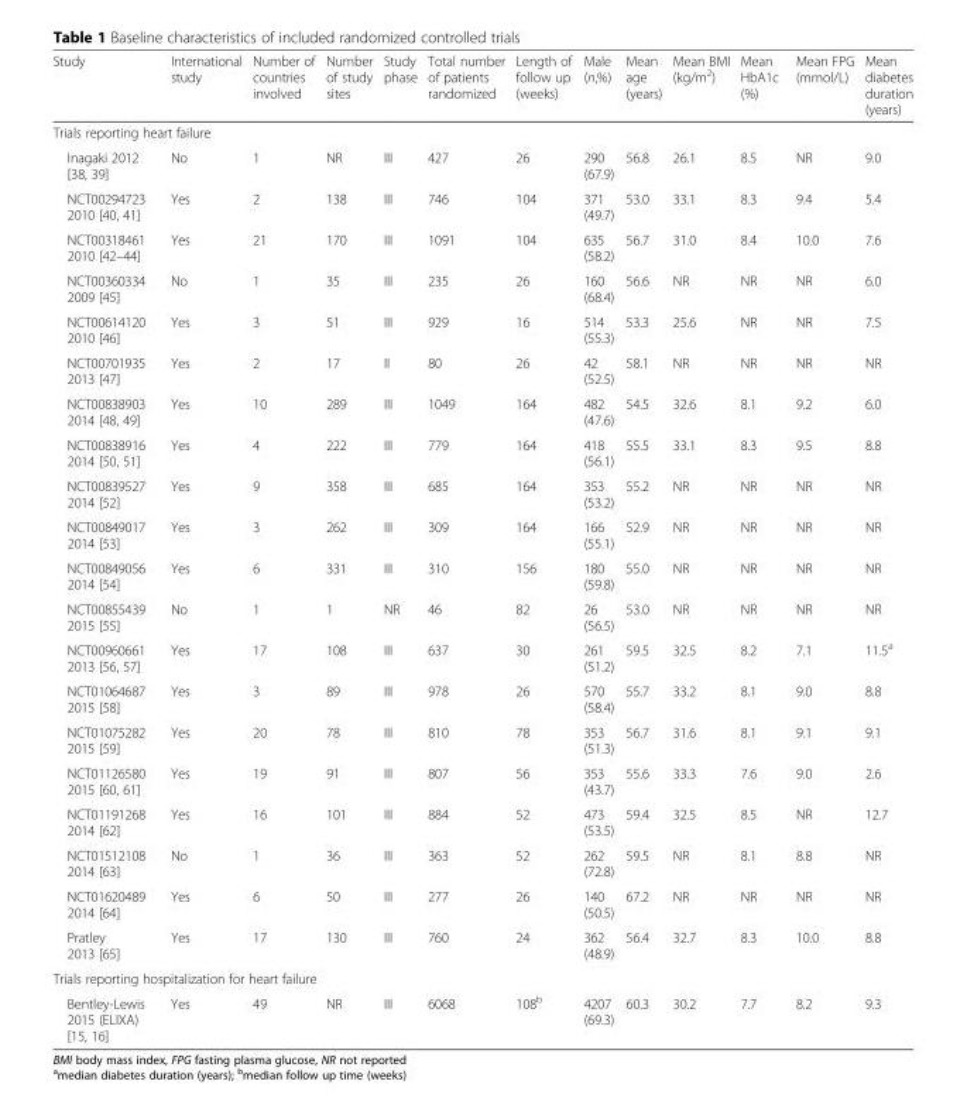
<table><thead><tr><td>Study</td><td>International study</td><td>Number of countries involved</td><td>Number of study sites</td><td>Study phase</td><td>Total number of patients randomized</td><td>Length of follow up (weeks)</td><td>Male (n,%)</td><td>Mean age (years)</td><td>Mean BMI (kg/m<sup>2</sup>)</td><td>Mean HbA1c (%)</td><td>Mean FPG (mmol/L)</td><td>Mean diabetes duration (years)</td></tr></thead><tbody><tr><td colspan="13">Trials reporting heart failure</td></tr><tr><td>Inagaki 2012 [38, 39]</td><td>No</td><td>1</td><td>NR</td><td>III</td><td>427</td><td>26</td><td>290 (67.9)</td><td>56.8</td><td>26.1</td><td>8.5</td><td>NR</td><td>9.0</td></tr><tr><td>NCT00294723 2010 [40, 41]</td><td>Yes</td><td>2</td><td>138</td><td>III</td><td>746</td><td>104</td><td>371 (49.7)</td><td>53.0</td><td>33.1</td><td>8.3</td><td>9.4</td><td>5.4</td></tr><tr><td>NCT00318461 2010 [42–44]</td><td>Yes</td><td>21</td><td>170</td><td>III</td><td>1091</td><td>104</td><td>635 (58.2)</td><td>56.7</td><td>31.0</td><td>8.4</td><td>10.0</td><td>7.6</td></tr><tr><td>NCT00360334 2009 [45]</td><td>No</td><td>1</td><td>35</td><td>III</td><td>235</td><td>26</td><td>160 (68.4)</td><td>56.6</td><td>NR</td><td>NR</td><td>NR</td><td>6.0</td></tr><tr><td>NCT00614120 2010 [46]</td><td>Yes</td><td>3</td><td>51</td><td>III</td><td>929</td><td>16</td><td>514 (55.3)</td><td>53.3</td><td>25.6</td><td>NR</td><td>NR</td><td>7.5</td></tr><tr><td>NCT00701935 2013 [47]</td><td>Yes</td><td>2</td><td>17</td><td>II</td><td>80</td><td>26</td><td>42 (52.5)</td><td>58.1</td><td>NR</td><td>NR</td><td>NR</td><td>NR</td></tr><tr><td>NCT00838903 2014 [48, 49]</td><td>Yes</td><td>10</td><td>289</td><td>III</td><td>1049</td><td>164</td><td>482 (47.6)</td><td>54.5</td><td>32.6</td><td>8.1</td><td>9.2</td><td>6.0</td></tr><tr><td>NCT00838916 2014 [50, 51]</td><td>Yes</td><td>4</td><td>222</td><td>III</td><td>779</td><td>164</td><td>418 (56.1)</td><td>55.5</td><td>33.1</td><td>8.3</td><td>9.5</td><td>8.8</td></tr><tr><td>NCT00839527 2014 [52]</td><td>Yes</td><td>9</td><td>358</td><td>III</td><td>685</td><td>164</td><td>353 (53.2)</td><td>55.2</td><td>NR</td><td>NR</td><td>NR</td><td>NR</td></tr><tr><td>NCT00849017 2014 [53]</td><td>Yes</td><td>3</td><td>262</td><td>III</td><td>309</td><td>164</td><td>166 (55.1)</td><td>52.9</td><td>NR</td><td>NR</td><td>NR</td><td>NR</td></tr><tr><td>NCT00849056 2014 [54]</td><td>Yes</td><td>6</td><td>331</td><td>III</td><td>310</td><td>156</td><td>180 (59.8)</td><td>55.0</td><td>NR</td><td>NR</td><td>NR</td><td>NR</td></tr><tr><td>NCT00855439 2015 [55]</td><td>No</td><td>1</td><td>1</td><td>NR</td><td>46</td><td>82</td><td>26 (56.5)</td><td>53.0</td><td>NR</td><td>NR</td><td>NR</td><td>NR</td></tr><tr><td>NCT00960661 2013 [56, 57]</td><td>Yes</td><td>17</td><td>108</td><td>III</td><td>637</td><td>30</td><td>261 (51.2)</td><td>59.5</td><td>32.5</td><td>8.2</td><td>7.1</td><td>11.5<sup>a</sup></td></tr><tr><td>NCT01064687 2015 [58]</td><td>Yes</td><td>3</td><td>89</td><td>III</td><td>978</td><td>26</td><td>570 (58.4)</td><td>55.7</td><td>33.2</td><td>8.1</td><td>9.0</td><td>8.8</td></tr><tr><td>NCT01075282 2015 [59]</td><td>Yes</td><td>20</td><td>78</td><td>III</td><td>810</td><td>78</td><td>353 (51.3)</td><td>56.7</td><td>31.6</td><td>8.1</td><td>9.1</td><td>9.1</td></tr><tr><td>NCT01126580 2015 [60, 61]</td><td>Yes</td><td>19</td><td>91</td><td>III</td><td>807</td><td>56</td><td>353 (43.7)</td><td>55.6</td><td>33.3</td><td>7.6</td><td>9.0</td><td>2.6</td></tr><tr><td>NCT01191268 2014 [62]</td><td>Yes</td><td>16</td><td>101</td><td>III</td><td>884</td><td>52</td><td>473 (53.5)</td><td>59.4</td><td>32.5</td><td>8.5</td><td>NR</td><td>12.7</td></tr><tr><td>NCT01512108 2014 [63]</td><td>No</td><td>1</td><td>36</td><td>III</td><td>363</td><td>52</td><td>262 (72.8)</td><td>59.5</td><td>NR</td><td>8.1</td><td>8.8</td><td>NR</td></tr><tr><td>NCT01620489 2014 [64]</td><td>Yes</td><td>6</td><td>50</td><td>III</td><td>277</td><td>26</td><td>140 (50.5)</td><td>67.2</td><td>NR</td><td>NR</td><td>NR</td><td>NR</td></tr><tr><td>Pratley 2013 [65]</td><td>Yes</td><td>17</td><td>130</td><td>III</td><td>760</td><td>24</td><td>362 (48.9)</td><td>56.4</td><td>32.7</td><td>8.3</td><td>10.0</td><td>8.8</td></tr><tr><td colspan="13">Trials reporting hospitalization for heart failure</td></tr><tr><td>Bentley-Lewis 2015 (ELIXA) [15, 16]</td><td>Yes</td><td>49</td><td>NR</td><td>III</td><td>6068</td><td>108<sup>b</sup></td><td>4207 (69.3)</td><td>60.3</td><td>30.2</td><td>7.7</td><td>8.2</td><td>9.3</td></tr></tbody></table>